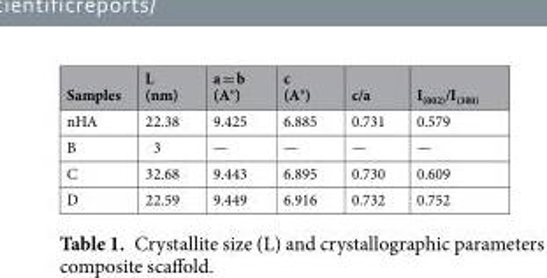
<table><thead><tr><td>Samples</td><td>L (nm)</td><td>a = b (A°)</td><td>c (A°)</td><td>c/a</td><td>I<sub>(002)</sub>/I<sub>(300)</sub></td></tr></thead><tbody><tr><td>nHA</td><td>22.38</td><td>9.425</td><td>6.885</td><td>0.731</td><td>0.579</td></tr><tr><td>B</td><td>3</td><td>—</td><td>—</td><td>—</td><td>—</td></tr><tr><td>C</td><td>32.68</td><td>9.443</td><td>6.895</td><td>0.730</td><td>0.609</td></tr><tr><td>D</td><td>22.59</td><td>9.449</td><td>6.916</td><td>0.732</td><td>0.752</td></tr></tbody></table>